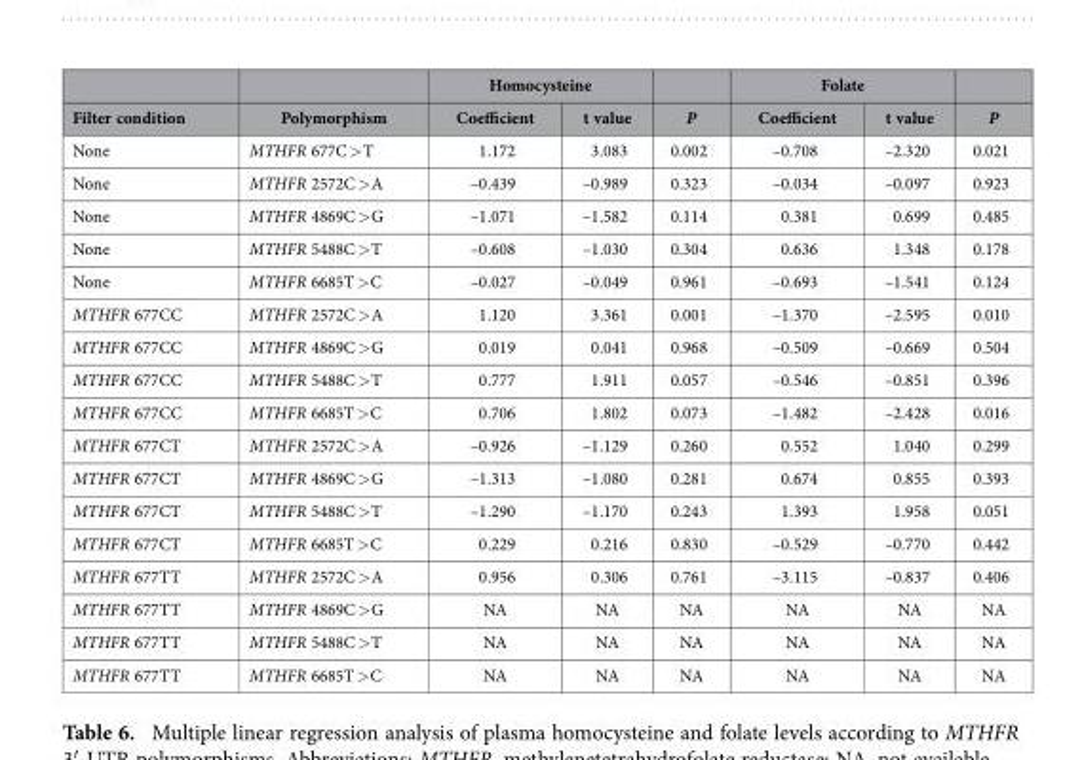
<table><thead><tr><td rowspan="2">Filter condition</td><td rowspan="2">Polymorphism</td><td colspan="2">Homocysteine</td><td rowspan="2">P</td><td colspan="2">Folate</td><td rowspan="2">P</td></tr><tr><td>Coefficient</td><td>t value</td><td>Coefficient</td><td>t value</td></tr></thead><tbody><tr><td>None</td><td>MTHFR 677C &gt; T</td><td>1.172</td><td>3.083</td><td>0.002</td><td>–0.708</td><td>–2.320</td><td>0.021</td></tr><tr><td>None</td><td>MTHFR 2572C &gt; A</td><td>–0.439</td><td>–0.989</td><td>0.323</td><td>–0.034</td><td>–0.097</td><td>0.923</td></tr><tr><td>None</td><td>MTHFR 4869C &gt; G</td><td>–1.071</td><td>–1.582</td><td>0.114</td><td>0.381</td><td>0.699</td><td>0.485</td></tr><tr><td>None</td><td>MTHFR 5488C &gt; T</td><td>–0.608</td><td>–1.030</td><td>0.304</td><td>0.636</td><td>1.348</td><td>0.178</td></tr><tr><td>None</td><td>MTHFR 6685T &gt; C</td><td>–0.027</td><td>–0.049</td><td>0.961</td><td>–0.693</td><td>–1.541</td><td>0.124</td></tr><tr><td>MTHFR 677CC</td><td>MTHFR 2572C &gt; A</td><td>1.120</td><td>3.361</td><td>0.001</td><td>–1.370</td><td>–2.595</td><td>0.010</td></tr><tr><td>MTHFR 677CC</td><td>MTHFR 4869C &gt; G</td><td>0.019</td><td>0.041</td><td>0.968</td><td>–0.509</td><td>–0.669</td><td>0.504</td></tr><tr><td>MTHFR 677CC</td><td>MTHFR 5488C &gt; T</td><td>0.777</td><td>1.911</td><td>0.057</td><td>–0.546</td><td>–0.851</td><td>0.396</td></tr><tr><td>MTHFR 677CC</td><td>MTHFR 6685T &gt; C</td><td>0.706</td><td>1.802</td><td>0.073</td><td>–1.482</td><td>–2.428</td><td>0.016</td></tr><tr><td>MTHFR 677CT</td><td>MTHFR 2572C &gt; A</td><td>–0.926</td><td>–1.129</td><td>0.260</td><td>0.552</td><td>1.040</td><td>0.299</td></tr><tr><td>MTHFR 677CT</td><td>MTHFR 4869C &gt; G</td><td>–1.313</td><td>–1.080</td><td>0.281</td><td>0.674</td><td>0.855</td><td>0.393</td></tr><tr><td>MTHFR 677CT</td><td>MTHFR 5488C &gt; T</td><td>–1.290</td><td>–1.170</td><td>0.243</td><td>1.393</td><td>1.958</td><td>0.051</td></tr><tr><td>MTHFR 677CT</td><td>MTHFR 6685T &gt; C</td><td>0.229</td><td>0.216</td><td>0.830</td><td>–0.529</td><td>–0.770</td><td>0.442</td></tr><tr><td>MTHFR 677TT</td><td>MTHFR 2572C &gt; A</td><td>0.956</td><td>0.306</td><td>0.761</td><td>–3.115</td><td>–0.837</td><td>0.406</td></tr><tr><td>MTHFR 677TT</td><td>MTHFR 4869C &gt; G</td><td>NA</td><td>NA</td><td>NA</td><td>NA</td><td>NA</td><td>NA</td></tr><tr><td>MTHFR 677TT</td><td>MTHFR 5488C &gt; T</td><td>NA</td><td>NA</td><td>NA</td><td>NA</td><td>NA</td><td>NA</td></tr><tr><td>MTHFR 677TT</td><td>MTHFR 6685T &gt; C</td><td>NA</td><td>NA</td><td>NA</td><td>NA</td><td>NA</td><td>NA</td></tr></tbody></table>